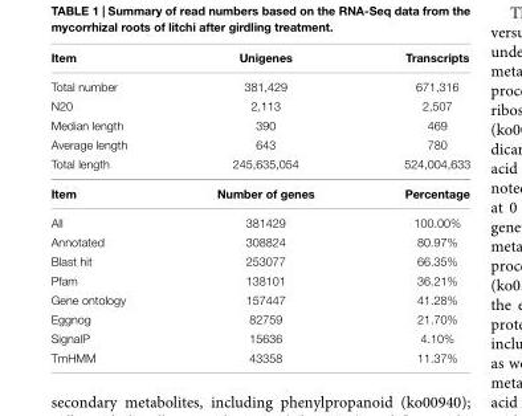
<table><thead><tr><td>Item</td><td>Unigenes</td><td>Transcripts</td></tr></thead><tbody><tr><td>Total number</td><td>381,429</td><td>671,316</td></tr><tr><td>N20</td><td>2,113</td><td>2,507</td></tr><tr><td>Median length</td><td>390</td><td>469</td></tr><tr><td>Average length</td><td>643</td><td>780</td></tr><tr><td>Total length</td><td>245,635,054</td><td>524,004,633</td></tr><tr><td>Item</td><td>Number of genes</td><td>Percentage</td></tr><tr><td>All</td><td>381429</td><td>100.00%</td></tr><tr><td>Annotated</td><td>308824</td><td>80.97%</td></tr><tr><td>Blast hit</td><td>253077</td><td>66.35%</td></tr><tr><td>Pfam</td><td>138101</td><td>36.21%</td></tr><tr><td>Gene ontology</td><td>157447</td><td>41.28%</td></tr><tr><td>Eggnog</td><td>82759</td><td>21.70%</td></tr><tr><td>SignalP</td><td>15636</td><td>4.10%</td></tr><tr><td>TmHMM</td><td>43358</td><td>11.37%</td></tr></tbody></table>